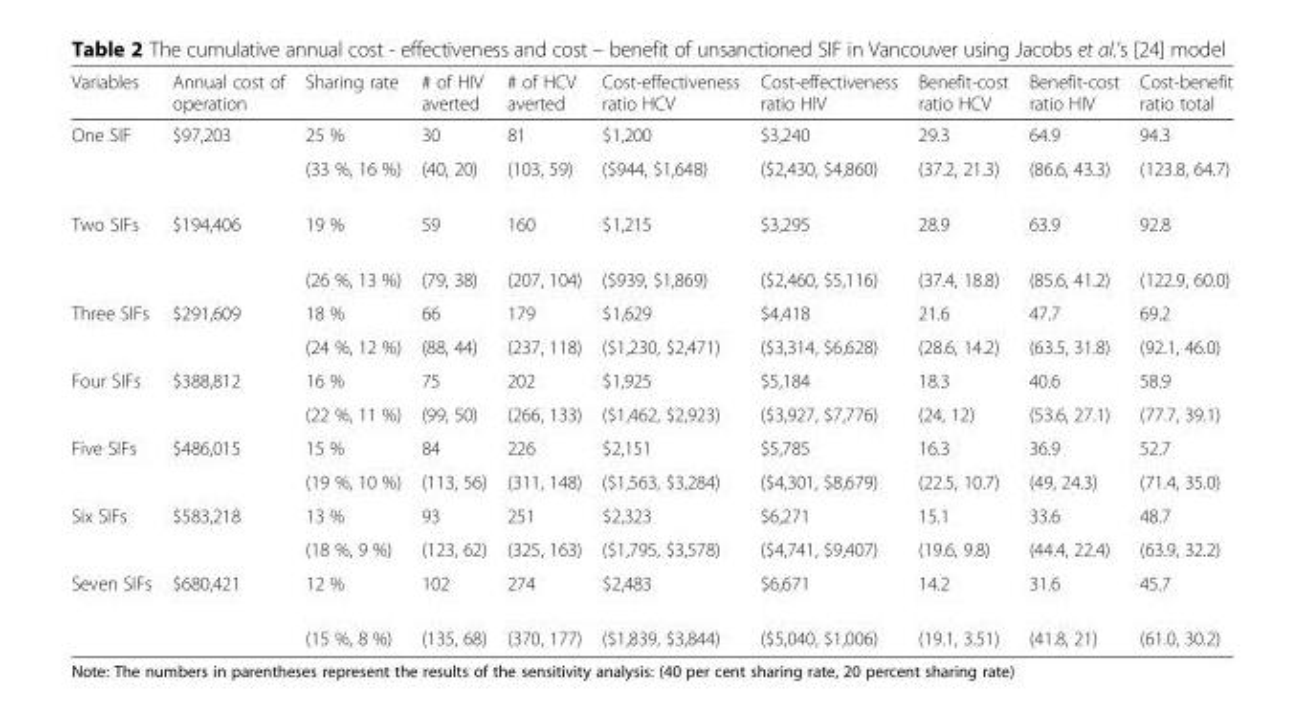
<table><thead><tr><td>Variables</td><td>Annual cost of operation</td><td>Sharing rate</td><td># of HIV averted</td><td># of HCV averted</td><td>Cost-effectiveness ratio HCV</td><td>Cost-effectiveness ratio HIV</td><td>Benefit-cost ratio HCV</td><td>Benefit-cost ratio HIV</td><td>Cost-benefit ratio total</td></tr></thead><tbody><tr><td rowspan="2">One SIF</td><td>$97,203</td><td>25 %</td><td>30</td><td>81</td><td>$1,200</td><td>$3,240</td><td>29.3</td><td>64.9</td><td>94.3</td></tr><tr><td></td><td>(33 %, 16 %)</td><td>(40, 20)</td><td>(103, 59)</td><td>($944, $1,648)</td><td>($2,430, $4,860)</td><td>(37.2, 21.3)</td><td>(86.6, 43.3)</td><td>(123.8, 64.7)</td></tr><tr><td rowspan="2">Two SIFs</td><td>$194,406</td><td>19 %</td><td>59</td><td>160</td><td>$1,215</td><td>$3,295</td><td>28.9</td><td>63.9</td><td>92.8</td></tr><tr><td></td><td>(26 %, 13 %)</td><td>(79, 38)</td><td>(207, 104)</td><td>($939, $1,869)</td><td>($2,460, $5,116)</td><td>(37.4, 18.8)</td><td>(85.6, 41.2)</td><td>(122.9, 60.0)</td></tr><tr><td rowspan="2">Three SIFs</td><td>$291,609</td><td>18 %</td><td>66</td><td>179</td><td>$1,629</td><td>$4,418</td><td>21.6</td><td>47.7</td><td>69.2</td></tr><tr><td></td><td>(24 %, 12 %)</td><td>(88, 44)</td><td>(237, 118)</td><td>($1,230, $2,471)</td><td>($3,314, $6,628)</td><td>(28.6, 14.2)</td><td>(63.5, 31.8)</td><td>(92.1, 46.0)</td></tr><tr><td rowspan="2">Four SIFs</td><td>$388,812</td><td>16 %</td><td>75</td><td>202</td><td>$1,925</td><td>$5,184</td><td>18.3</td><td>40.6</td><td>58.9</td></tr><tr><td></td><td>(22 %, 11 %)</td><td>(99, 50)</td><td>(266, 133)</td><td>($1,462, $2,923)</td><td>($3,927, $7,776)</td><td>(24, 12)</td><td>(53.6, 27.1)</td><td>(77.7, 39.1)</td></tr><tr><td rowspan="2">Five SIFs</td><td>$486,015</td><td>15 %</td><td>84</td><td>226</td><td>$2,151</td><td>$5,785</td><td>16.3</td><td>36.9</td><td>52.7</td></tr><tr><td></td><td>(19 %, 10 %)</td><td>(113, 56)</td><td>(311, 148)</td><td>($1,563, $3,284)</td><td>($4,301, $8,679)</td><td>(22.5, 10.7)</td><td>(49, 24.3)</td><td>(71.4, 35.0)</td></tr><tr><td rowspan="2">Six SIFs</td><td>$583,218</td><td>13 %</td><td>93</td><td>251</td><td>$2,323</td><td>$6,271</td><td>15.1</td><td>33.6</td><td>48.7</td></tr><tr><td></td><td>(18 %, 9 %)</td><td>(123, 62)</td><td>(325, 163)</td><td>($1,795, $3,578)</td><td>($4,741, $9,407)</td><td>(19.6, 9.8)</td><td>(44.4, 22.4)</td><td>(63.9, 32.2)</td></tr><tr><td rowspan="2">Seven SIFs</td><td>$680,421</td><td>12 %</td><td>102</td><td>274</td><td>$2,483</td><td>$6,671</td><td>14.2</td><td>31.6</td><td>45.7</td></tr><tr><td></td><td>(15 %, 8 %)</td><td>(135, 68)</td><td>(370, 177)</td><td>($1,839, $3,844)</td><td>($5,040, $1,006)</td><td>(19.1, 3.51)</td><td>(41.8, 21)</td><td>(61.0, 30.2)</td></tr></tbody></table>